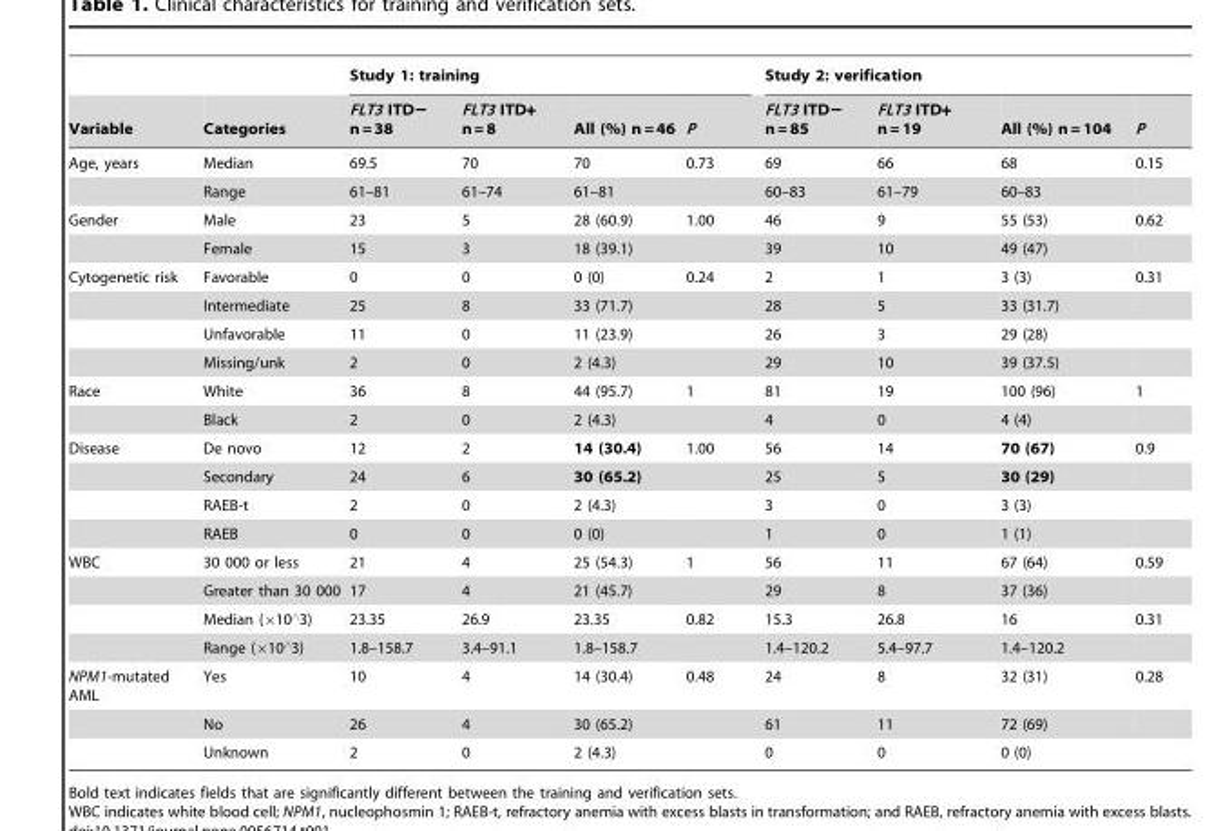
<table><thead><tr><td rowspan="2">Variable</td><td rowspan="2">Categories</td><td colspan="4">Study 1: training</td><td colspan="4">Study 2: verification</td></tr><tr><td>FLT3 ITD− n = 38</td><td>FLT3 ITD+ n = 8</td><td>All (%) n = 46</td><td>P</td><td>FLT3 ITD− n = 85</td><td>FLT3 ITD+ n = 19</td><td>All (%) n = 104</td><td>P</td></tr></thead><tbody><tr><td rowspan="2">Age, years</td><td>Median</td><td>69.5</td><td>70</td><td>70</td><td>0.73</td><td>69</td><td>66</td><td>68</td><td>0.15</td></tr><tr><td>Range</td><td>61–81</td><td>61–74</td><td>61–81</td><td></td><td>60–83</td><td>61–79</td><td>60–83</td><td></td></tr><tr><td rowspan="2">Gender</td><td>Male</td><td>23</td><td>5</td><td>28 (60.9)</td><td>1.00</td><td>46</td><td>9</td><td>55 (53)</td><td>0.62</td></tr><tr><td>Female</td><td>15</td><td>3</td><td>18 (39.1)</td><td></td><td>39</td><td>10</td><td>49 (47)</td><td></td></tr><tr><td rowspan="4">Cytogenetic risk</td><td>Favorable</td><td>0</td><td>0</td><td>0 (0)</td><td>0.24</td><td>2</td><td>1</td><td>3 (3)</td><td>0.31</td></tr><tr><td>Intermediate</td><td>25</td><td>8</td><td>33 (71.7)</td><td></td><td>28</td><td>5</td><td>33 (31.7)</td><td></td></tr><tr><td>Unfavorable</td><td>11</td><td>0</td><td>11 (23.9)</td><td></td><td>26</td><td>3</td><td>29 (28)</td><td></td></tr><tr><td>Missing/unk</td><td>2</td><td>0</td><td>2 (4.3)</td><td></td><td>29</td><td>10</td><td>39 (37.5)</td><td></td></tr><tr><td rowspan="2">Race</td><td>White</td><td>36</td><td>8</td><td>44 (95.7)</td><td>1</td><td>81</td><td>19</td><td>100 (96)</td><td>1</td></tr><tr><td>Black</td><td>2</td><td>0</td><td>2 (4.3)</td><td></td><td>4</td><td>0</td><td>4 (4)</td><td></td></tr><tr><td rowspan="4">Disease</td><td>De novo</td><td>12</td><td>2</td><td>14 (30.4)</td><td>1.00</td><td>56</td><td>14</td><td>70 (67)</td><td>0.9</td></tr><tr><td>Secondary</td><td>24</td><td>6</td><td>30 (65.2)</td><td></td><td>25</td><td>5</td><td>30 (29)</td><td></td></tr><tr><td>RAEB-t</td><td>2</td><td>0</td><td>2 (4.3)</td><td></td><td>3</td><td>0</td><td>3 (3)</td><td></td></tr><tr><td>RAEB</td><td>0</td><td>0</td><td>0 (0)</td><td></td><td>1</td><td>0</td><td>1 (1)</td><td></td></tr><tr><td rowspan="4">WBC</td><td>30 000 or less</td><td>21</td><td>4</td><td>25 (54.3)</td><td>1</td><td>56</td><td>11</td><td>67 (64)</td><td>0.59</td></tr><tr><td>Greater than 30 000</td><td>17</td><td>4</td><td>21 (45.7)</td><td></td><td>29</td><td>8</td><td>37 (36)</td><td></td></tr><tr><td>Median (610‘3)</td><td>23.35</td><td>26.9</td><td>23.35</td><td>0.82</td><td>15.3</td><td>26.8</td><td>16</td><td>0.31</td></tr><tr><td>Range (610‘3)</td><td>1.8–158.7</td><td>3.4–91.1</td><td>1.8–158.7</td><td></td><td>1.4–120.2</td><td>5.4–97.7</td><td>1.4–120.2</td><td></td></tr><tr><td rowspan="3">NPM1-mutated AML</td><td>Yes</td><td>10</td><td>4</td><td>14 (30.4)</td><td>0.48</td><td>24</td><td>8</td><td>32 (31)</td><td>0.28</td></tr><tr><td>No</td><td>26</td><td>4</td><td>30 (65.2)</td><td></td><td>61</td><td>11</td><td>72 (69)</td><td></td></tr><tr><td>Unknown</td><td>2</td><td>0</td><td>2 (4.3)</td><td></td><td>0</td><td>0</td><td>0 (0)</td><td></td></tr></tbody></table>